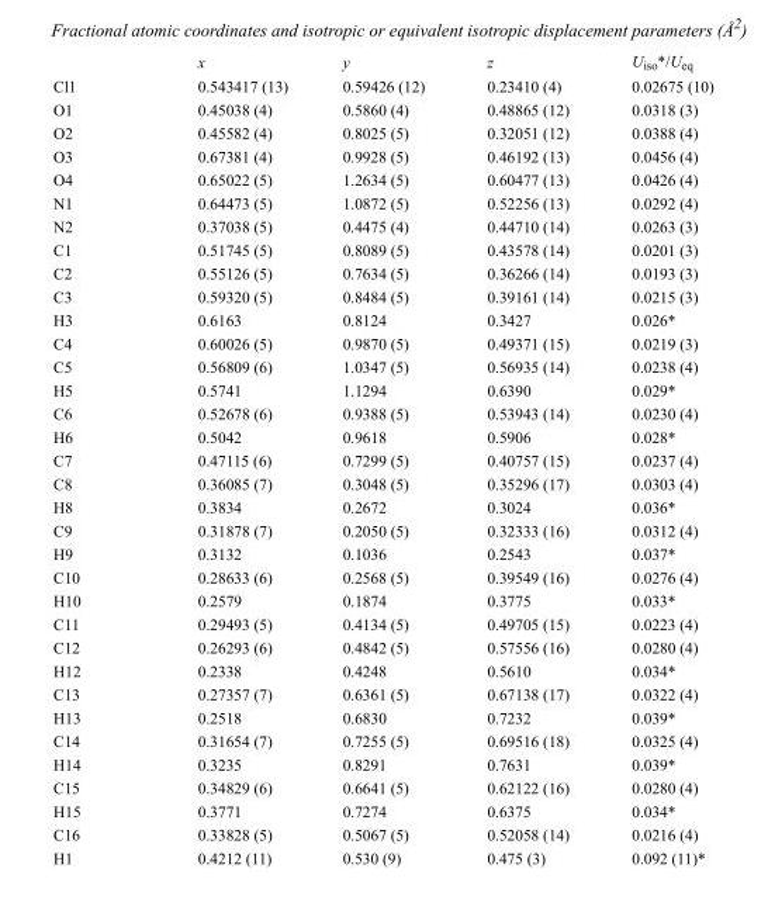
<table><thead><tr><td></td><td>x</td><td>y</td><td>z</td><td>U<sub>iso</sub>*/U<sub>eq</sub></td></tr></thead><tbody><tr><td>Cl1</td><td>0.543417 (13)</td><td>0.59426 (12)</td><td>0.23410 (4)</td><td>0.02675 (10)</td></tr><tr><td>O1</td><td>0.45038 (4)</td><td>0.5860 (4)</td><td>0.48865 (12)</td><td>0.0318 (3)</td></tr><tr><td>O2</td><td>0.45582 (4)</td><td>0.8025 (5)</td><td>0.32051 (12)</td><td>0.0388 (4)</td></tr><tr><td>O3</td><td>0.67381 (4)</td><td>0.9928 (5)</td><td>0.46192 (13)</td><td>0.0456 (4)</td></tr><tr><td>O4</td><td>0.65022 (5)</td><td>1.2634 (5)</td><td>0.60477 (13)</td><td>0.0426 (4)</td></tr><tr><td>N1</td><td>0.64473 (5)</td><td>1.0872 (5)</td><td>0.52256 (13)</td><td>0.0292 (4)</td></tr><tr><td>N2</td><td>0.37038 (5)</td><td>0.4475 (4)</td><td>0.44710 (14)</td><td>0.0263 (3)</td></tr><tr><td>C1</td><td>0.51745 (5)</td><td>0.8089 (5)</td><td>0.43578 (14)</td><td>0.0201 (3)</td></tr><tr><td>C2</td><td>0.55126 (5)</td><td>0.7634 (5)</td><td>0.36266 (14)</td><td>0.0193 (3)</td></tr><tr><td>C3</td><td>0.59320 (5)</td><td>0.8484 (5)</td><td>0.39161 (14)</td><td>0.0215 (3)</td></tr><tr><td>H3</td><td>0.6163</td><td>0.8124</td><td>0.3427</td><td>0.026*</td></tr><tr><td>C4</td><td>0.60026 (5)</td><td>0.9870 (5)</td><td>0.49371 (15)</td><td>0.0219 (3)</td></tr><tr><td>C5</td><td>0.56809 (6)</td><td>1.0347 (5)</td><td>0.56935 (14)</td><td>0.0238 (4)</td></tr><tr><td>H5</td><td>0.5741</td><td>1.1294</td><td>0.6390</td><td>0.029*</td></tr><tr><td>C6</td><td>0.52678 (6)</td><td>0.9388 (5)</td><td>0.53943 (14)</td><td>0.0230 (4)</td></tr><tr><td>H6</td><td>0.5042</td><td>0.9618</td><td>0.5906</td><td>0.028*</td></tr><tr><td>C7</td><td>0.47115 (6)</td><td>0.7299 (5)</td><td>0.40757 (15)</td><td>0.0237 (4)</td></tr><tr><td>C8</td><td>0.36085 (7)</td><td>0.3048 (5)</td><td>0.35296 (17)</td><td>0.0303 (4)</td></tr><tr><td>H8</td><td>0.3834</td><td>0.2672</td><td>0.3024</td><td>0.036*</td></tr><tr><td>C9</td><td>0.31878 (7)</td><td>0.2050 (5)</td><td>0.32333 (16)</td><td>0.0312 (4)</td></tr><tr><td>H9</td><td>0.3132</td><td>0.1036</td><td>0.2543</td><td>0.037*</td></tr><tr><td>C10</td><td>0.28633 (6)</td><td>0.2568 (5)</td><td>0.39549 (16)</td><td>0.0276 (4)</td></tr><tr><td>H10</td><td>0.2579</td><td>0.1874</td><td>0.3775</td><td>0.033*</td></tr><tr><td>C11</td><td>0.29493 (5)</td><td>0.4134 (5)</td><td>0.49705 (15)</td><td>0.0223 (4)</td></tr><tr><td>C12</td><td>0.26293 (6)</td><td>0.4842 (5)</td><td>0.57556 (16)</td><td>0.0280 (4)</td></tr><tr><td>H12</td><td>0.2338</td><td>0.4248</td><td>0.5610</td><td>0.034*</td></tr><tr><td>C13</td><td>0.27357 (7)</td><td>0.6361 (5)</td><td>0.67138 (17)</td><td>0.0322 (4)</td></tr><tr><td>H13</td><td>0.2518</td><td>0.6830</td><td>0.7232</td><td>0.039*</td></tr><tr><td>C14</td><td>0.31654 (7)</td><td>0.7255 (5)</td><td>0.69516 (18)</td><td>0.0325 (4)</td></tr><tr><td>H14</td><td>0.3235</td><td>0.8291</td><td>0.7631</td><td>0.039*</td></tr><tr><td>C15</td><td>0.34829 (6)</td><td>0.6641 (5)</td><td>0.62122 (16)</td><td>0.0280 (4)</td></tr><tr><td>H15</td><td>0.3771</td><td>0.7274</td><td>0.6375</td><td>0.034*</td></tr><tr><td>C16</td><td>0.33828 (5)</td><td>0.5067 (5)</td><td>0.52058 (14)</td><td>0.0216 (4)</td></tr><tr><td>H1</td><td>0.4212 (11)</td><td>0.530 (9)</td><td>0.475 (3)</td><td>0.092 (11)*</td></tr></tbody></table>